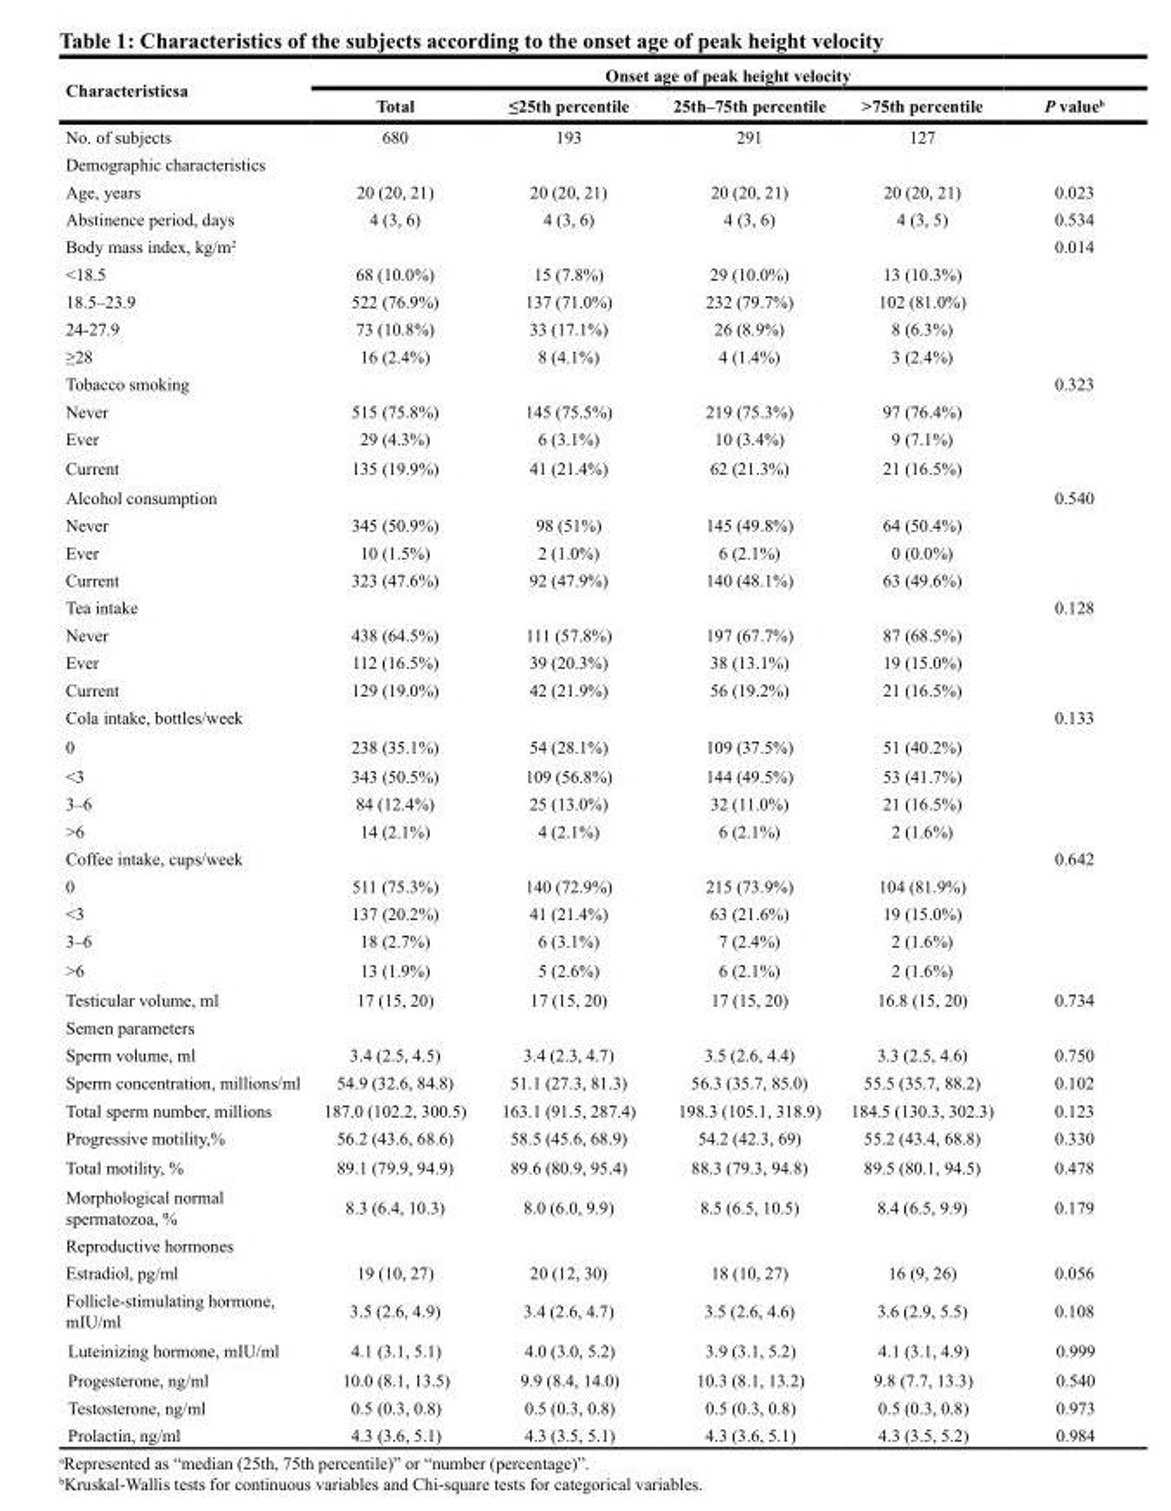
<table><thead><tr><td rowspan="2">Characteristicsa</td><td colspan="5">Onset age of peak height velocity</td></tr><tr><td>Total</td><td>≤25th percentile</td><td>25th–75th percentile</td><td>&gt;75th percentile</td><td>P value<sup>b</sup></td></tr></thead><tbody><tr><td>No. of subjects</td><td>680</td><td>193</td><td>291</td><td>127</td><td></td></tr><tr><td colspan="6">Demographic characteristics</td></tr><tr><td>Age, years</td><td>20 (20, 21)</td><td>20 (20, 21)</td><td>20 (20, 21)</td><td>20 (20, 21)</td><td>0.023</td></tr><tr><td>Abstinence period, days</td><td>4 (3, 6)</td><td>4 (3, 6)</td><td>4 (3, 6)</td><td>4 (3, 5)</td><td>0.534</td></tr><tr><td>Body mass index, kg/m<sup>2</sup></td><td></td><td></td><td></td><td></td><td>0.014</td></tr><tr><td>&lt;18.5</td><td>68 (10.0%)</td><td>15 (7.8%)</td><td>29 (10.0%)</td><td>13 (10.3%)</td><td></td></tr><tr><td>18.5–23.9</td><td>522 (76.9%)</td><td>137 (71.0%)</td><td>232 (79.7%)</td><td>102 (81.0%)</td><td></td></tr><tr><td>24-27.9</td><td>73 (10.8%)</td><td>33 (17.1%)</td><td>26 (8.9%)</td><td>8 (6.3%)</td><td></td></tr><tr><td>≥28</td><td>16 (2.4%)</td><td>8 (4.1%)</td><td>4 (1.4%)</td><td>3 (2.4%)</td><td></td></tr><tr><td>Tobacco smoking</td><td></td><td></td><td></td><td></td><td>0.323</td></tr><tr><td>Never</td><td>515 (75.8%)</td><td>145 (75.5%)</td><td>219 (75.3%)</td><td>97 (76.4%)</td><td></td></tr><tr><td>Ever</td><td>29 (4.3%)</td><td>6 (3.1%)</td><td>10 (3.4%)</td><td>9 (7.1%)</td><td></td></tr><tr><td>Current</td><td>135 (19.9%)</td><td>41 (21.4%)</td><td>62 (21.3%)</td><td>21 (16.5%)</td><td></td></tr><tr><td>Alcohol consumption</td><td></td><td></td><td></td><td></td><td>0.540</td></tr><tr><td>Never</td><td>345 (50.9%)</td><td>98 (51%)</td><td>145 (49.8%)</td><td>64 (50.4%)</td><td></td></tr><tr><td>Ever</td><td>10 (1.5%)</td><td>2 (1.0%)</td><td>6 (2.1%)</td><td>0 (0.0%)</td><td></td></tr><tr><td>Current</td><td>323 (47.6%)</td><td>92 (47.9%)</td><td>140 (48.1%)</td><td>63 (49.6%)</td><td></td></tr><tr><td>Tea intake</td><td></td><td></td><td></td><td></td><td>0.128</td></tr><tr><td>Never</td><td>438 (64.5%)</td><td>111 (57.8%)</td><td>197 (67.7%)</td><td>87 (68.5%)</td><td></td></tr><tr><td>Ever</td><td>112 (16.5%)</td><td>39 (20.3%)</td><td>38 (13.1%)</td><td>19 (15.0%)</td><td></td></tr><tr><td>Current</td><td>129 (19.0%)</td><td>42 (21.9%)</td><td>56 (19.2%)</td><td>21 (16.5%)</td><td></td></tr><tr><td>Cola intake, bottles/week</td><td></td><td></td><td></td><td></td><td>0.133</td></tr><tr><td>0</td><td>238 (35.1%)</td><td>54 (28.1%)</td><td>109 (37.5%)</td><td>51 (40.2%)</td><td></td></tr><tr><td>&lt;3</td><td>343 (50.5%)</td><td>109 (56.8%)</td><td>144 (49.5%)</td><td>53 (41.7%)</td><td></td></tr><tr><td>3–6</td><td>84 (12.4%)</td><td>25 (13.0%)</td><td>32 (11.0%)</td><td>21 (16.5%)</td><td></td></tr><tr><td>&gt;6</td><td>14 (2.1%)</td><td>4 (2.1%)</td><td>6 (2.1%)</td><td>2 (1.6%)</td><td></td></tr><tr><td>Coffee intake, cups/week</td><td></td><td></td><td></td><td></td><td>0.642</td></tr><tr><td>0</td><td>511 (75.3%)</td><td>140 (72.9%)</td><td>215 (73.9%)</td><td>104 (81.9%)</td><td></td></tr><tr><td>&lt;3</td><td>137 (20.2%)</td><td>41 (21.4%)</td><td>63 (21.6%)</td><td>19 (15.0%)</td><td></td></tr><tr><td>3–6</td><td>18 (2.7%)</td><td>6 (3.1%)</td><td>7 (2.4%)</td><td>2 (1.6%)</td><td></td></tr><tr><td>&gt;6</td><td>13 (1.9%)</td><td>5 (2.6%)</td><td>6 (2.1%)</td><td>2 (1.6%)</td><td></td></tr><tr><td>Testicular volume, ml</td><td>17 (15, 20)</td><td>17 (15, 20)</td><td>17 (15, 20)</td><td>16.8 (15, 20)</td><td>0.734</td></tr><tr><td colspan="6">Semen parameters</td></tr><tr><td>Sperm volume, ml</td><td>3.4 (2.5, 4.5)</td><td>3.4 (2.3, 4.7)</td><td>3.5 (2.6, 4.4)</td><td>3.3 (2.5, 4.6)</td><td>0.750</td></tr><tr><td>Sperm concentration, millions/ml</td><td>54.9 (32.6, 84.8)</td><td>51.1 (27.3, 81.3)</td><td>56.3 (35.7, 85.0)</td><td>55.5 (35.7, 88.2)</td><td>0.102</td></tr><tr><td>Total sperm number, millions</td><td>187.0 (102.2, 300.5)</td><td>163.1 (91.5, 287.4)</td><td>198.3 (105.1, 318.9)</td><td>184.5 (130.3, 302.3)</td><td>0.123</td></tr><tr><td>Progressive motility,%</td><td>56.2 (43.6, 68.6)</td><td>58.5 (45.6, 68.9)</td><td>54.2 (42.3, 69)</td><td>55.2 (43.4, 68.8)</td><td>0.330</td></tr><tr><td>Total motility, %</td><td>89.1 (79.9, 94.9)</td><td>89.6 (80.9, 95.4)</td><td>88.3 (79.3, 94.8)</td><td>89.5 (80.1, 94.5)</td><td>0.478</td></tr><tr><td>Morphological normal spermatozoa, %</td><td>8.3 (6.4, 10.3)</td><td>8.0 (6.0, 9.9)</td><td>8.5 (6.5, 10.5)</td><td>8.4 (6.5, 9.9)</td><td>0.179</td></tr><tr><td colspan="6">Reproductive hormones</td></tr><tr><td>Estradiol, pg/ml</td><td>19 (10, 27)</td><td>20 (12, 30)</td><td>18 (10, 27)</td><td>16 (9, 26)</td><td>0.056</td></tr><tr><td>Follicle-stimulating hormone, mIU/ml</td><td>3.5 (2.6, 4.9)</td><td>3.4 (2.6, 4.7)</td><td>3.5 (2.6, 4.6)</td><td>3.6 (2.9, 5.5)</td><td>0.108</td></tr><tr><td>Luteinizing hormone, mIU/ml</td><td>4.1 (3.1, 5.1)</td><td>4.0 (3.0, 5.2)</td><td>3.9 (3.1, 5.2)</td><td>4.1 (3.1, 4.9)</td><td>0.999</td></tr><tr><td>Progesterone, ng/ml</td><td>10.0 (8.1, 13.5)</td><td>9.9 (8.4, 14.0)</td><td>10.3 (8.1, 13.2)</td><td>9.8 (7.7, 13.3)</td><td>0.540</td></tr><tr><td>Testosterone, ng/ml</td><td>0.5 (0.3, 0.8)</td><td>0.5 (0.3, 0.8)</td><td>0.5 (0.3, 0.8)</td><td>0.5 (0.3, 0.8)</td><td>0.973</td></tr><tr><td>Prolactin, ng/ml</td><td>4.3 (3.6, 5.1)</td><td>4.3 (3.5, 5.1)</td><td>4.3 (3.6, 5.1)</td><td>4.3 (3.5, 5.2)</td><td>0.984</td></tr></tbody></table>